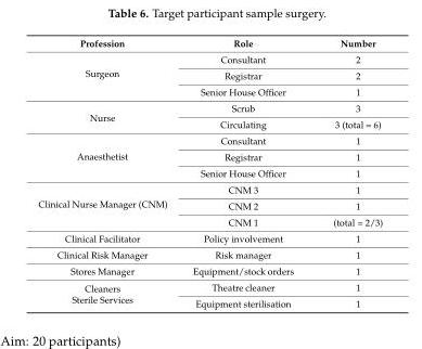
<table><thead><tr><td>Profession</td><td>Role</td><td>Number</td></tr></thead><tbody><tr><td rowspan="3">Surgeon</td><td>Consultant</td><td>2</td></tr><tr><td>Registrar</td><td>2</td></tr><tr><td>Senior House Officer</td><td>1</td></tr><tr><td rowspan="2">Nurse</td><td>Scrub</td><td>3</td></tr><tr><td>Circulating</td><td>3 (total = 6)</td></tr><tr><td rowspan="3">Anaesthetist</td><td>Consultant</td><td>1</td></tr><tr><td>Registrar</td><td>1</td></tr><tr><td>Senior House Officer</td><td>1</td></tr><tr><td rowspan="3">Clinical Nurse Manager (CNM)</td><td>CNM 3</td><td>1</td></tr><tr><td>CNM 2</td><td>1</td></tr><tr><td>CNM 1</td><td>(total = 2/3)</td></tr><tr><td>Clinical Facilitator</td><td>Policy involvement</td><td>1</td></tr><tr><td>Clinical Risk Manager</td><td>Risk manager</td><td>1</td></tr><tr><td>Stores Manager</td><td>Equipment/stock orders</td><td>1</td></tr><tr><td rowspan="2">Cleaners Sterile Services</td><td>Theatre cleaner</td><td>1</td></tr><tr><td>Equipment sterilisation</td><td>1</td></tr></tbody></table>